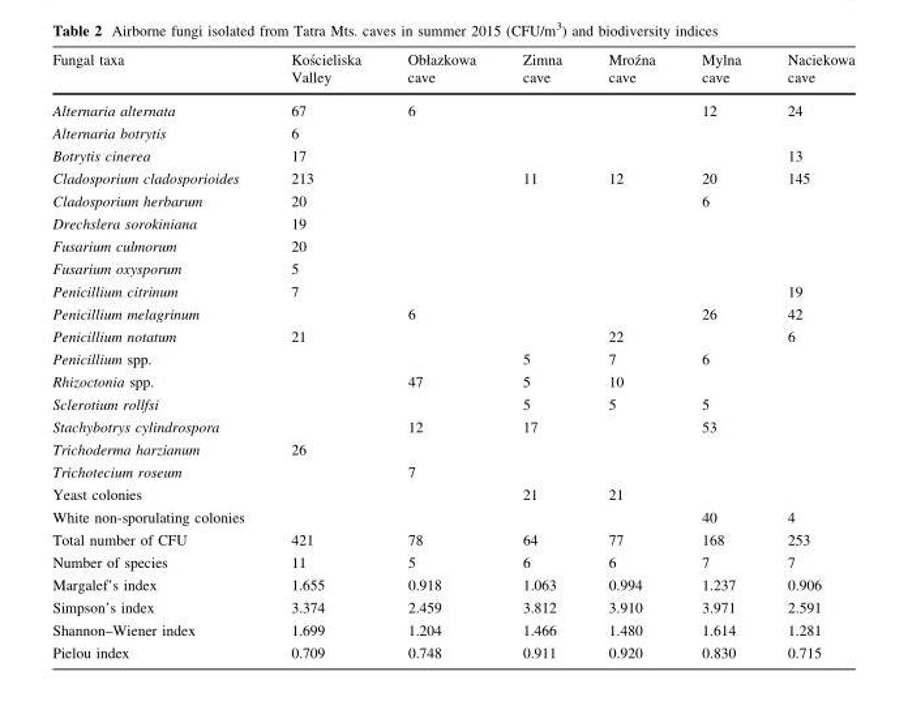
<table><thead><tr><td>Fungal taxa</td><td>Kos´cieliska Valley</td><td>Obłazkowa cave</td><td>Zimna cave</td><td>Mroz´na cave</td><td>Mylna cave</td><td>Naciekowa cave</td></tr></thead><tbody><tr><td>Alternaria alternata</td><td>67</td><td>6</td><td></td><td></td><td>12</td><td>24</td></tr><tr><td>Alternaria botrytis</td><td>6</td><td></td><td></td><td></td><td></td><td></td></tr><tr><td>Botrytis cinerea</td><td>17</td><td></td><td></td><td></td><td></td><td>13</td></tr><tr><td>Cladosporium cladosporioides</td><td>213</td><td></td><td>11</td><td>12</td><td>20</td><td>145</td></tr><tr><td>Cladosporium herbarum</td><td>20</td><td></td><td></td><td></td><td>6</td><td></td></tr><tr><td>Drechslera sorokiniana</td><td>19</td><td></td><td></td><td></td><td></td><td></td></tr><tr><td>Fusarium culmorum</td><td>20</td><td></td><td></td><td></td><td></td><td></td></tr><tr><td>Fusarium oxysporum</td><td>5</td><td></td><td></td><td></td><td></td><td></td></tr><tr><td>Penicillium citrinum</td><td>7</td><td></td><td></td><td></td><td></td><td>19</td></tr><tr><td>Penicillium melagrinum</td><td></td><td>6</td><td></td><td></td><td>26</td><td>42</td></tr><tr><td>Penicillium notatum</td><td>21</td><td></td><td></td><td>22</td><td></td><td>6</td></tr><tr><td>Penicillium spp.</td><td></td><td></td><td>5</td><td>7</td><td>6</td><td></td></tr><tr><td>Rhizoctonia spp.</td><td></td><td>47</td><td>5</td><td>10</td><td></td><td></td></tr><tr><td>Sclerotium rollfsi</td><td></td><td></td><td>5</td><td>5</td><td>5</td><td></td></tr><tr><td>Stachybotrys cylindrospora</td><td></td><td>12</td><td>17</td><td></td><td>53</td><td></td></tr><tr><td>Trichoderma harzianum</td><td>26</td><td></td><td></td><td></td><td></td><td></td></tr><tr><td>Trichotecium roseum</td><td></td><td>7</td><td></td><td></td><td></td><td></td></tr><tr><td>Yeast colonies</td><td></td><td></td><td>21</td><td>21</td><td></td><td></td></tr><tr><td>White non-sporulating colonies</td><td></td><td></td><td></td><td></td><td>40</td><td>4</td></tr><tr><td>Total number of CFU</td><td>421</td><td>78</td><td>64</td><td>77</td><td>168</td><td>253</td></tr><tr><td>Number of species</td><td>11</td><td>5</td><td>6</td><td>6</td><td>7</td><td>7</td></tr><tr><td>Margalef’s index</td><td>1.655</td><td>0.918</td><td>1.063</td><td>0.994</td><td>1.237</td><td>0.906</td></tr><tr><td>Simpson’s index</td><td>3.374</td><td>2.459</td><td>3.812</td><td>3.910</td><td>3.971</td><td>2.591</td></tr><tr><td>Shannon–Wiener index</td><td>1.699</td><td>1.204</td><td>1.466</td><td>1.480</td><td>1.614</td><td>1.281</td></tr><tr><td>Pielou index</td><td>0.709</td><td>0.748</td><td>0.911</td><td>0.920</td><td>0.830</td><td>0.715</td></tr></tbody></table>